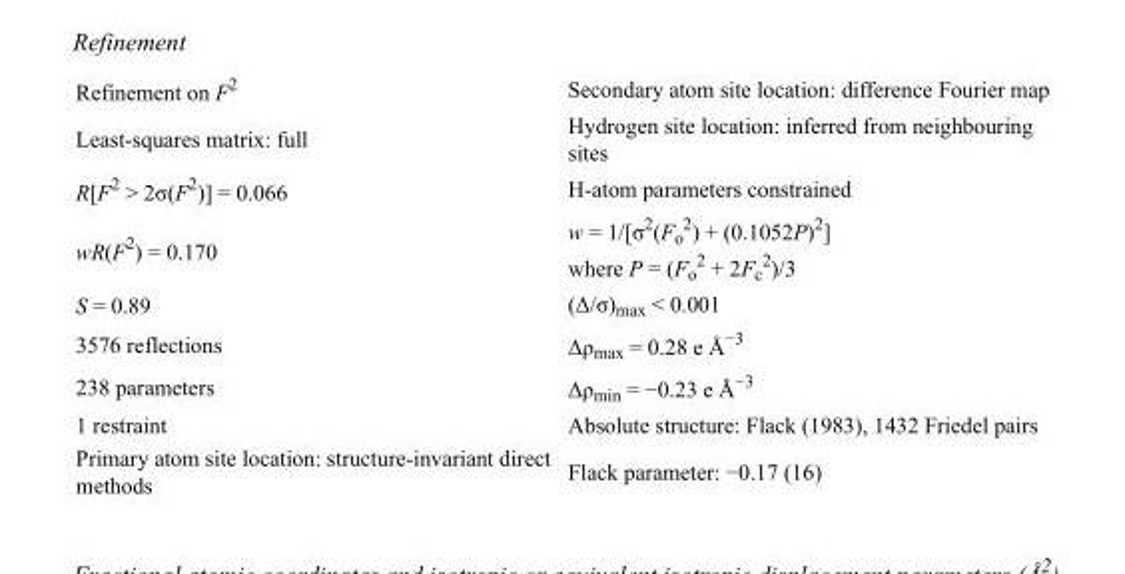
<table><tbody><tr><td>Refinement on F<sup>2</sup></td><td>Secondary atom site location: difference Fourier map</td></tr><tr><td>Least-squares matrix: full</td><td>Hydrogen site location: inferred from neighbouring sites</td></tr><tr><td>R[F<sup>2</sup> &gt; 2σ(F<sup>2</sup>)] = 0.066</td><td>H-atom parameters constrained</td></tr><tr><td>wR(F<sup>2</sup>) = 0.170</td><td>w = 1/[σ<sup>2</sup>(F<sub>o</sub> <sup>2</sup>) + (0.1052P)<sup>2</sup>] where P = (F<sub>o</sub> <sup>2</sup> + 2F<sub>c</sub> <sup>2</sup>)/3</td></tr><tr><td>S = 0.89</td><td>(Δ/σ)<sub>max</sub> &lt; 0.001</td></tr><tr><td>3576 reflections</td><td>Δρ<sub>max</sub> = 0.28 e Å<sup>−3</sup></td></tr><tr><td>238 parameters</td><td>Δρ<sub>min</sub> = −0.23 e Å<sup>−3</sup></td></tr><tr><td>1 restraint</td><td>Absolute structure: Flack (1983), 1432 Friedel pairs</td></tr><tr><td>Primary atom site location: structure-invariant direct methods</td><td>Flack parameter: −0.17 (16)</td></tr></tbody></table>